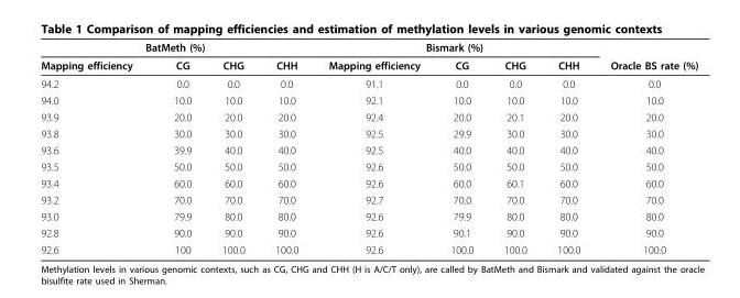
<table><thead><tr><td colspan="4">BatMeth (%)</td><td colspan="4">Bismark (%)</td><td rowspan="2">Oracle BS rate (%)</td></tr><tr><td>Mapping efficiency</td><td>CG</td><td>CHG</td><td>CHH</td><td>Mapping efficiency</td><td>CG</td><td>CHG</td><td>CHH</td></tr></thead><tbody><tr><td>94.2</td><td>0.0</td><td>0.0</td><td>0.0</td><td>91.1</td><td>0.0</td><td>0.0</td><td>0.0</td><td>0.0</td></tr><tr><td>94.0</td><td>10.0</td><td>10.0</td><td>10.0</td><td>92.1</td><td>10.0</td><td>10.0</td><td>10.0</td><td>10.0</td></tr><tr><td>93.9</td><td>20.0</td><td>20.0</td><td>20.0</td><td>92.4</td><td>20.0</td><td>20.1</td><td>20.0</td><td>20.0</td></tr><tr><td>93.8</td><td>30.0</td><td>30.0</td><td>30.0</td><td>92.5</td><td>29.9</td><td>30.0</td><td>30.0</td><td>30.0</td></tr><tr><td>93.6</td><td>39.9</td><td>40.0</td><td>40.0</td><td>92.5</td><td>40.0</td><td>40.0</td><td>40.0</td><td>40.0</td></tr><tr><td>93.5</td><td>50.0</td><td>50.0</td><td>50.0</td><td>92.6</td><td>50.0</td><td>50.0</td><td>50.0</td><td>50.0</td></tr><tr><td>93.4</td><td>60.0</td><td>60.0</td><td>60.0</td><td>92.6</td><td>60.0</td><td>60.1</td><td>60.0</td><td>60.0</td></tr><tr><td>93.2</td><td>70.0</td><td>70.0</td><td>70.0</td><td>92.7</td><td>70.0</td><td>70.0</td><td>70.0</td><td>70.0</td></tr><tr><td>93.0</td><td>79.9</td><td>80.0</td><td>80.0</td><td>92.6</td><td>79.9</td><td>80.0</td><td>80.0</td><td>80.0</td></tr><tr><td>92.8</td><td>90.0</td><td>90.0</td><td>90.0</td><td>92.6</td><td>90.1</td><td>90.0</td><td>90.0</td><td>90.0</td></tr><tr><td>92.6</td><td>100</td><td>100.0</td><td>100.0</td><td>92.6</td><td>100.0</td><td>100.0</td><td>100.0</td><td>100.0</td></tr></tbody></table>